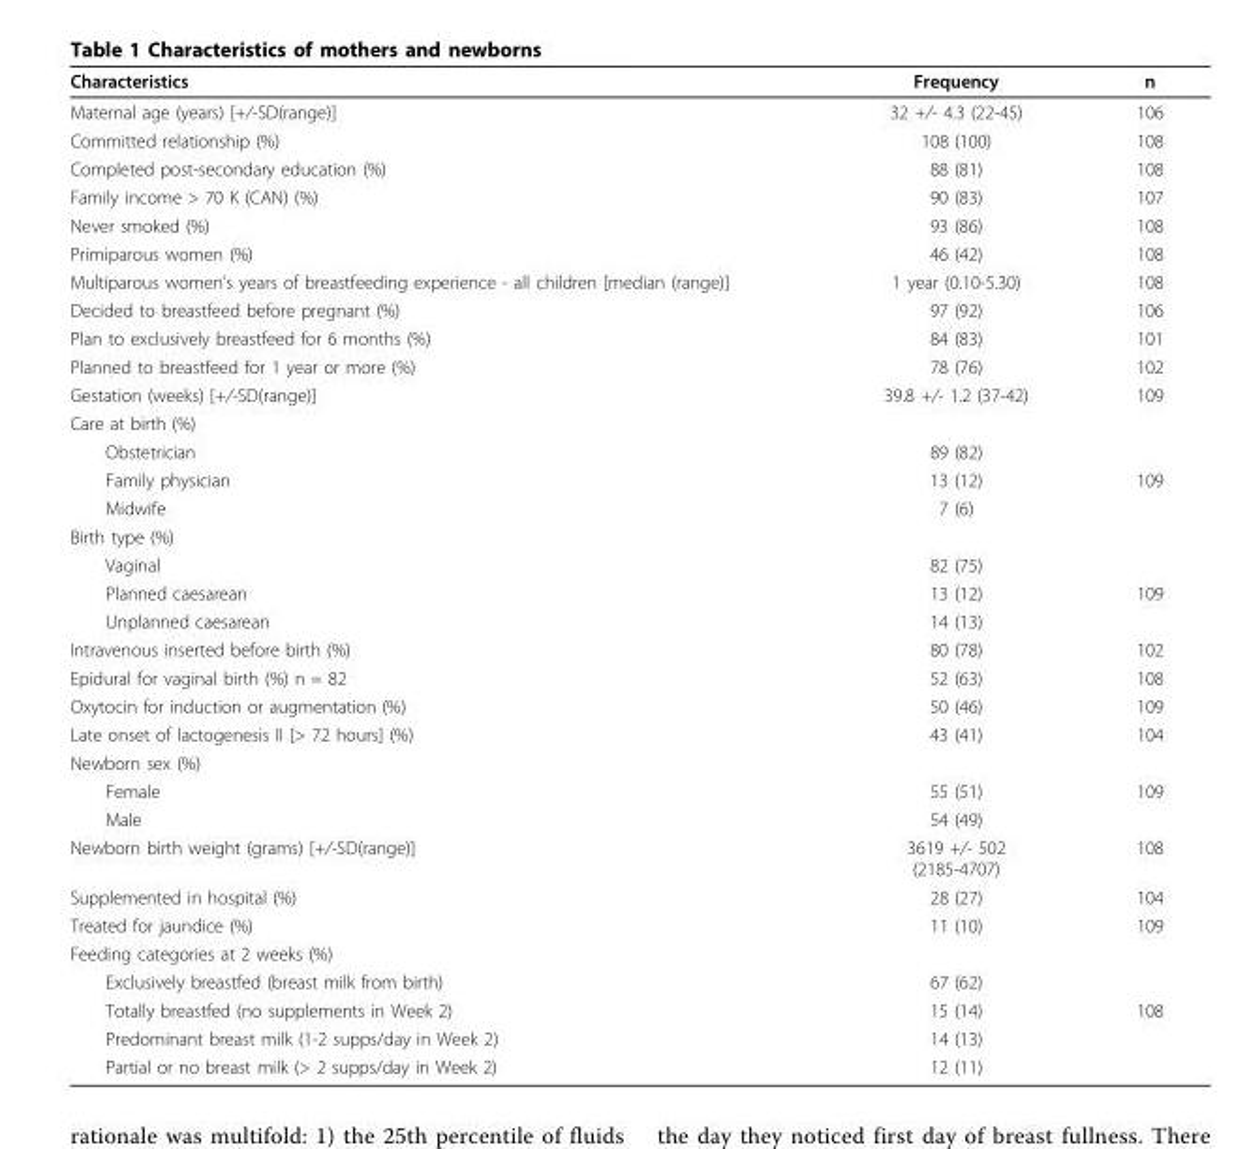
<table><thead><tr><td>Characteristics</td><td>Frequency</td><td>n</td></tr></thead><tbody><tr><td>Maternal age (years) [+/-SD(range)]</td><td>32 +/- 4.3 (22-45)</td><td>106</td></tr><tr><td>Committed relationship (%)</td><td>108 (100)</td><td>108</td></tr><tr><td>Completed post-secondary education (%)</td><td>88 (81)</td><td>108</td></tr><tr><td>Family income &gt; 70 K (CAN) (%)</td><td>90 (83)</td><td>107</td></tr><tr><td>Never smoked (%)</td><td>93 (86)</td><td>108</td></tr><tr><td>Primiparous women (%)</td><td>46 (42)</td><td>108</td></tr><tr><td>Multiparous women’s years of breastfeeding experience - all children [median (range)]</td><td>1 year (0.10-5.30)</td><td>108</td></tr><tr><td>Decided to breastfeed before pregnant (%)</td><td>97 (92)</td><td>106</td></tr><tr><td>Plan to exclusively breastfeed for 6 months (%)</td><td>84 (83)</td><td>101</td></tr><tr><td>Planned to breastfeed for 1 year or more (%)</td><td>78 (76)</td><td>102</td></tr><tr><td>Gestation (weeks) [+/-SD(range)]</td><td>39.8 +/- 1.2 (37-42)</td><td>109</td></tr><tr><td colspan="3">Care at birth (%)</td></tr><tr><td>Obstetrician</td><td>89 (82)</td><td></td></tr><tr><td>Family physician</td><td>13 (12)</td><td>109</td></tr><tr><td>Midwife</td><td>7 (6)</td><td></td></tr><tr><td colspan="3">Birth type (%)</td></tr><tr><td>Vaginal</td><td>82 (75)</td><td></td></tr><tr><td>Planned caesarean</td><td>13 (12)</td><td>109</td></tr><tr><td>Unplanned caesarean</td><td>14 (13)</td><td></td></tr><tr><td>Intravenous inserted before birth (%)</td><td>80 (78)</td><td>102</td></tr><tr><td>Epidural for vaginal birth (%) n = 82</td><td>52 (63)</td><td>108</td></tr><tr><td>Oxytocin for induction or augmentation (%)</td><td>50 (46)</td><td>109</td></tr><tr><td>Late onset of lactogenesis II [&gt; 72 hours] (%)</td><td>43 (41)</td><td>104</td></tr><tr><td colspan="3">Newborn sex (%)</td></tr><tr><td>Female</td><td>55 (51)</td><td>109</td></tr><tr><td>Male</td><td>54 (49)</td><td></td></tr><tr><td>Newborn birth weight (grams) [+/-SD(range)]</td><td>3619 +/- 502 (2185-4707)</td><td>108</td></tr><tr><td>Supplemented in hospital (%)</td><td>28 (27)</td><td>104</td></tr><tr><td>Treated for jaundice (%)</td><td>11 (10)</td><td>109</td></tr><tr><td colspan="3">Feeding categories at 2 weeks (%)</td></tr><tr><td>Exclusively breastfed (breast milk from birth)</td><td>67 (62)</td><td></td></tr><tr><td>Totally breastfed (no supplements in Week 2)</td><td>15 (14)</td><td>108</td></tr><tr><td>Predominant breast milk (1-2 supps/day in Week 2)</td><td>14 (13)</td><td></td></tr><tr><td>Partial or no breast milk (&gt; 2 supps/day in Week 2)</td><td>12 (11)</td><td></td></tr></tbody></table>